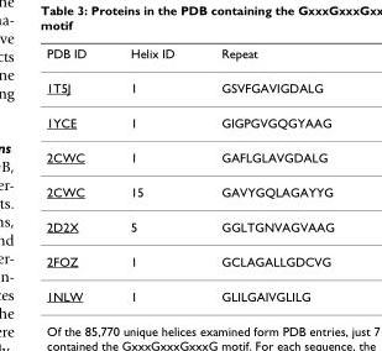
<table><thead><tr><td>PDB ID</td><td>Helix ID</td><td>Repeat</td></tr></thead><tbody><tr><td>1T5J</td><td>1</td><td>GSVFGAVIGDALG</td></tr><tr><td>1YCE</td><td>1</td><td>GIGPGVGQGYAAG</td></tr><tr><td>2CWC</td><td>1</td><td>GAFLGLAVGDALG</td></tr><tr><td>2CWC</td><td>15</td><td>GAVYGQLAGAYYG</td></tr><tr><td>2D2X</td><td>5</td><td>GGLTGNVAGVAAG</td></tr><tr><td>2FOZ</td><td>1</td><td>GCLAGALLGDCVG</td></tr><tr><td>1NLW</td><td>1</td><td>GLILGAIVGLILG</td></tr></tbody></table>